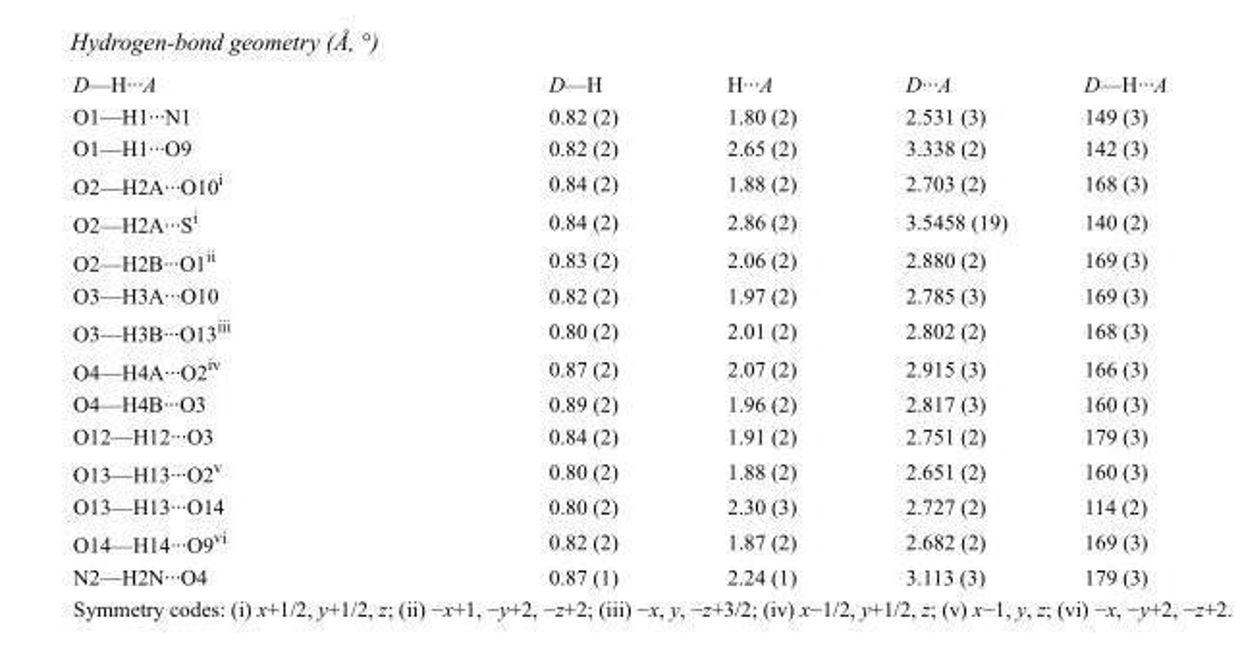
<table><tbody><tr><td>D—H···A</td><td>D—H</td><td>H···A</td><td>D···A</td><td>D—H···A</td></tr><tr><td>O1—H1···N1</td><td>0.82 (2)</td><td>1.80 (2)</td><td>2.531 (3)</td><td>149 (3)</td></tr><tr><td>O1—H1···O9</td><td>0.82 (2)</td><td>2.65 (2)</td><td>3.338 (2)</td><td>142 (3)</td></tr><tr><td>O2—H2A···O10<sup>i</sup></td><td>0.84 (2)</td><td>1.88 (2)</td><td>2.703 (2)</td><td>168 (3)</td></tr><tr><td>O2—H2A···S<sup>i</sup></td><td>0.84 (2)</td><td>2.86 (2)</td><td>3.5458 (19)</td><td>140 (2)</td></tr><tr><td>O2—H2B···O1<sup>ii</sup></td><td>0.83 (2)</td><td>2.06 (2)</td><td>2.880 (2)</td><td>169 (3)</td></tr><tr><td>O3—H3A···O10</td><td>0.82 (2)</td><td>1.97 (2)</td><td>2.785 (3)</td><td>169 (3)</td></tr><tr><td>O3—H3B···O13<sup>iii</sup></td><td>0.80 (2)</td><td>2.01 (2)</td><td>2.802 (2)</td><td>168 (3)</td></tr><tr><td>O4—H4A···O2<sup>iv</sup></td><td>0.87 (2)</td><td>2.07 (2)</td><td>2.915 (3)</td><td>166 (3)</td></tr><tr><td>O4—H4B···O3</td><td>0.89 (2)</td><td>1.96 (2)</td><td>2.817 (3)</td><td>160 (3)</td></tr><tr><td>O12—H12···O3</td><td>0.84 (2)</td><td>1.91 (2)</td><td>2.751 (2)</td><td>179 (3)</td></tr><tr><td>O13—H13···O2<sup>v</sup></td><td>0.80 (2)</td><td>1.88 (2)</td><td>2.651 (2)</td><td>160 (3)</td></tr><tr><td>O13—H13···O14</td><td>0.80 (2)</td><td>2.30 (3)</td><td>2.727 (2)</td><td>114 (2)</td></tr><tr><td>O14—H14···O9<sup>vi</sup></td><td>0.82 (2)</td><td>1.87 (2)</td><td>2.682 (2)</td><td>169 (3)</td></tr><tr><td>N2—H2N···O4</td><td>0.87 (1)</td><td>2.24 (1)</td><td>3.113 (3)</td><td>179 (3)</td></tr></tbody></table>